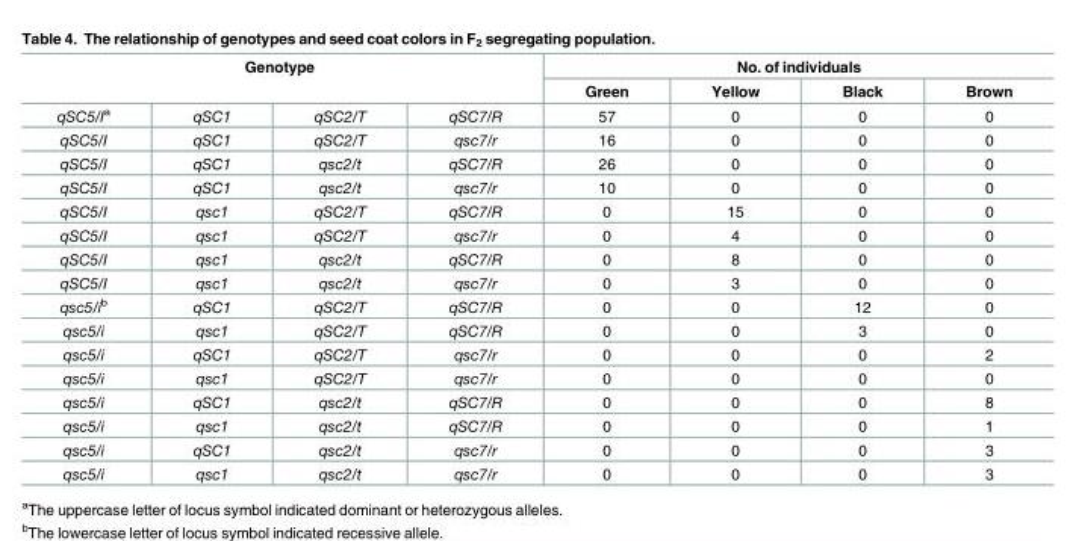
<table><thead><tr><td rowspan="2" colspan="4">Genotype</td><td colspan="4">No. of individuals</td></tr><tr><td rowspan="2">Green 57</td><td rowspan="2">Yellow 0</td><td rowspan="2">Black 0</td><td rowspan="2">Brown 0</td></tr><tr><td>qSC5/I<sup>a</sup></td><td>qSC1</td><td>qSC2/T</td><td>qSC7/R</td></tr></thead><tbody><tr><td>qSC5/I</td><td>qSC1</td><td>qSC2/T</td><td>qsc7/r</td><td>16</td><td>0</td><td>0</td><td>0</td></tr><tr><td>qSC5/I</td><td>qSC1</td><td>qsc2/t</td><td>qSC7/R</td><td>26</td><td>0</td><td>0</td><td>0</td></tr><tr><td>qSC5/I</td><td>qSC1</td><td>qsc2/t</td><td>qsc7/r</td><td>10</td><td>0</td><td>0</td><td>0</td></tr><tr><td>qSC5/I</td><td>qsc1</td><td>qSC2/T</td><td>qSC7/R</td><td>0</td><td>15</td><td>0</td><td>0</td></tr><tr><td>qSC5/I</td><td>qsc1</td><td>qSC2/T</td><td>qsc7/r</td><td>0</td><td>4</td><td>0</td><td>0</td></tr><tr><td>qSC5/I</td><td>qsc1</td><td>qsc2/t</td><td>qSC7/R</td><td>0</td><td>8</td><td>0</td><td>0</td></tr><tr><td>qSC5/I</td><td>qsc1</td><td>qsc2/t</td><td>qsc7/r</td><td>0</td><td>3</td><td>0</td><td>0</td></tr><tr><td>qsc5/i<sup>b</sup></td><td>qSC1</td><td>qSC2/T</td><td>qSC7/R</td><td>0</td><td>0</td><td>12</td><td>0</td></tr><tr><td>qsc5/i</td><td>qsc1</td><td>qSC2/T</td><td>qSC7/R</td><td>0</td><td>0</td><td>3</td><td>0</td></tr><tr><td>qsc5/i</td><td>qSC1</td><td>qSC2/T</td><td>qsc7/r</td><td>0</td><td>0</td><td>0</td><td>2</td></tr><tr><td>qsc5/i</td><td>qsc1</td><td>qSC2/T</td><td>qsc7/r</td><td>0</td><td>0</td><td>0</td><td>0</td></tr><tr><td>qsc5/i</td><td>qSC1</td><td>qsc2/t</td><td>qSC7/R</td><td>0</td><td>0</td><td>0</td><td>8</td></tr><tr><td>qsc5/i</td><td>qsc1</td><td>qsc2/t</td><td>qSC7/R</td><td>0</td><td>0</td><td>0</td><td>1</td></tr><tr><td>qsc5/i</td><td>qSC1</td><td>qsc2/t</td><td>qsc7/r</td><td>0</td><td>0</td><td>0</td><td>3</td></tr><tr><td>qsc5/i</td><td>qsc1</td><td>qsc2/t</td><td>qsc7/r</td><td>0</td><td>0</td><td>0</td><td>3</td></tr></tbody></table>